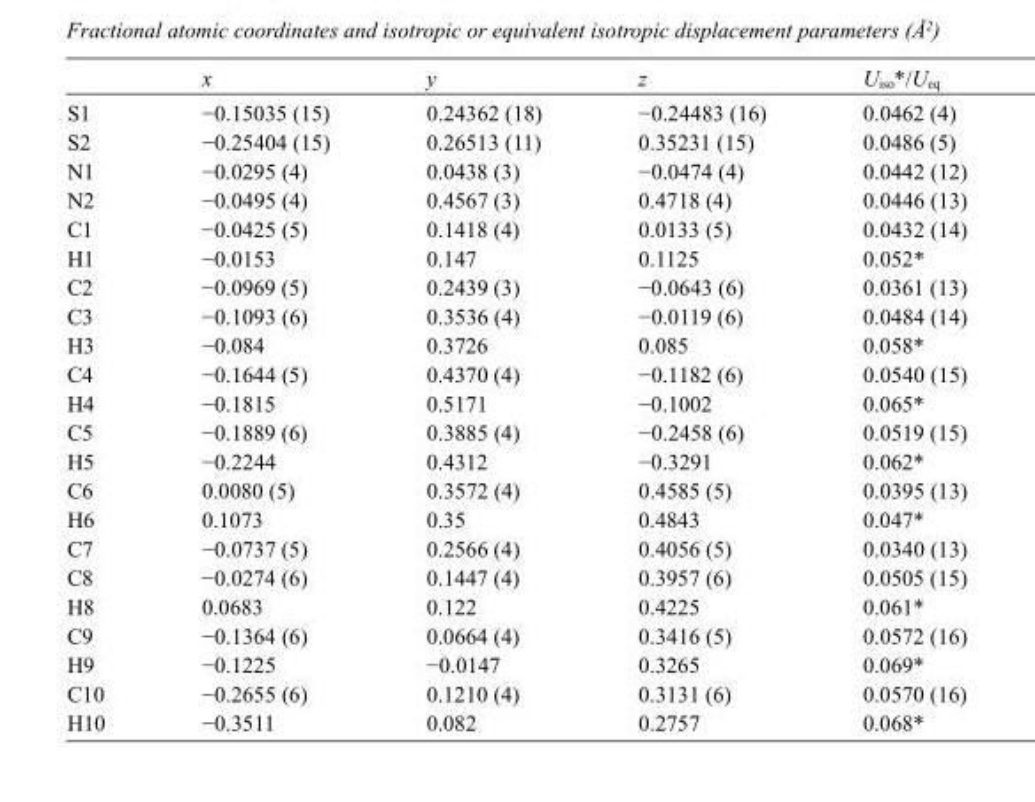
<table><thead><tr><td></td><td>x</td><td>y</td><td>z</td><td>U<sub>iso</sub>*/U<sub>eq</sub></td></tr></thead><tbody><tr><td>S1</td><td>−0.15035 (15)</td><td>0.24362 (18)</td><td>−0.24483 (16)</td><td>0.0462 (4)</td></tr><tr><td>S2</td><td>−0.25404 (15)</td><td>0.26513 (11)</td><td>0.35231 (15)</td><td>0.0486 (5)</td></tr><tr><td>N1</td><td>−0.0295 (4)</td><td>0.0438 (3)</td><td>−0.0474 (4)</td><td>0.0442 (12)</td></tr><tr><td>N2</td><td>−0.0495 (4)</td><td>0.4567 (3)</td><td>0.4718 (4)</td><td>0.0446 (13)</td></tr><tr><td>C1</td><td>−0.0425 (5)</td><td>0.1418 (4)</td><td>0.0133 (5)</td><td>0.0432 (14)</td></tr><tr><td>H1</td><td>−0.0153</td><td>0.147</td><td>0.1125</td><td>0.052*</td></tr><tr><td>C2</td><td>−0.0969 (5)</td><td>0.2439 (3)</td><td>−0.0643 (6)</td><td>0.0361 (13)</td></tr><tr><td>C3</td><td>−0.1093 (6)</td><td>0.3536 (4)</td><td>−0.0119 (6)</td><td>0.0484 (14)</td></tr><tr><td>H3</td><td>−0.084</td><td>0.3726</td><td>0.085</td><td>0.058*</td></tr><tr><td>C4</td><td>−0.1644 (5)</td><td>0.4370 (4)</td><td>−0.1182 (6)</td><td>0.0540 (15)</td></tr><tr><td>H4</td><td>−0.1815</td><td>0.5171</td><td>−0.1002</td><td>0.065*</td></tr><tr><td>C5</td><td>−0.1889 (6)</td><td>0.3885 (4)</td><td>−0.2458 (6)</td><td>0.0519 (15)</td></tr><tr><td>H5</td><td>−0.2244</td><td>0.4312</td><td>−0.3291</td><td>0.062*</td></tr><tr><td>C6</td><td>0.0080 (5)</td><td>0.3572 (4)</td><td>0.4585 (5)</td><td>0.0395 (13)</td></tr><tr><td>H6</td><td>0.1073</td><td>0.35</td><td>0.4843</td><td>0.047*</td></tr><tr><td>C7</td><td>−0.0737 (5)</td><td>0.2566 (4)</td><td>0.4056 (5)</td><td>0.0340 (13)</td></tr><tr><td>C8</td><td>−0.0274 (6)</td><td>0.1447 (4)</td><td>0.3957 (6)</td><td>0.0505 (15)</td></tr><tr><td>H8</td><td>0.0683</td><td>0.122</td><td>0.4225</td><td>0.061*</td></tr><tr><td>C9</td><td>−0.1364 (6)</td><td>0.0664 (4)</td><td>0.3416 (5)</td><td>0.0572 (16)</td></tr><tr><td>H9</td><td>−0.1225</td><td>−0.0147</td><td>0.3265</td><td>0.069*</td></tr><tr><td>C10</td><td>−0.2655 (6)</td><td>0.1210 (4)</td><td>0.3131 (6)</td><td>0.0570 (16)</td></tr><tr><td>H10</td><td>−0.3511</td><td>0.082</td><td>0.2757</td><td>0.068*</td></tr></tbody></table>